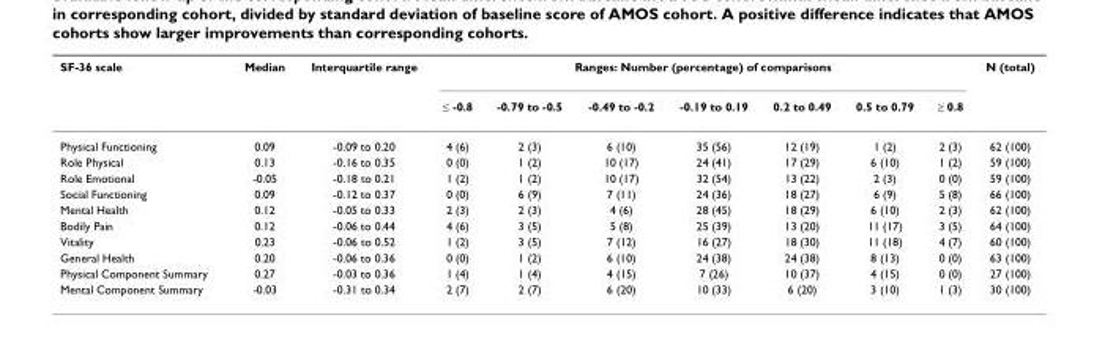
<table><thead><tr><td rowspan="2">SF-36 scale</td><td rowspan="2">Median</td><td rowspan="2">Interquartile range</td><td colspan="7">Ranges: Number (percentage) of comparisons</td><td rowspan="2">N (total)</td></tr><tr><td>≤ -0.8</td><td>-0.79 to -0.5</td><td>-0.49 to -0.2</td><td>-0.19 to 0.19</td><td>0.2 to 0.49</td><td>0.5 to 0.79</td><td>≥ 0.8</td></tr></thead><tbody><tr><td>Physical Functioning</td><td>0.09</td><td>-0.09 to 0.20</td><td>4 (6)</td><td>2 (3)</td><td>6 (10)</td><td>35 (56)</td><td>12 (19)</td><td>1 (2)</td><td>2 (3)</td><td>62 (100)</td></tr><tr><td>Role Physical</td><td>0.13</td><td>-0.16 to 0.35</td><td>0 (0)</td><td>1 (2)</td><td>10 (17)</td><td>24 (41)</td><td>17 (29)</td><td>6 (10)</td><td>1 (2)</td><td>59 (100)</td></tr><tr><td>Role Emotional</td><td>-0.05</td><td>-0.18 to 0.21</td><td>1 (2)</td><td>1 (2)</td><td>10 (17)</td><td>32 (54)</td><td>13 (22)</td><td>2 (3)</td><td>0 (0)</td><td>59 (100)</td></tr><tr><td>Social Functioning</td><td>0.09</td><td>-0.12 to 0.37</td><td>0 (0)</td><td>6 (9)</td><td>7 (11)</td><td>24 (36)</td><td>18 (27)</td><td>6 (9)</td><td>5 (8)</td><td>66 (100)</td></tr><tr><td>Mental Health</td><td>0.12</td><td>-0.05 to 0.33</td><td>2 (3)</td><td>2 (3)</td><td>4 (6)</td><td>28 (45)</td><td>18 (29)</td><td>6 (10)</td><td>2 (3)</td><td>62 (100)</td></tr><tr><td>Bodily Pain</td><td>0.12</td><td>-0.06 to 0.44</td><td>4 (6)</td><td>3 (5)</td><td>5 (8)</td><td>25 (39)</td><td>13 (20)</td><td>11 (17)</td><td>3 (5)</td><td>64 (100)</td></tr><tr><td>Vitality</td><td>0.23</td><td>-0.06 to 0.52</td><td>1 (2)</td><td>3 (5)</td><td>7 (12)</td><td>16 (27)</td><td>18 (30)</td><td>11 (18)</td><td>4 (7)</td><td>60 (100)</td></tr><tr><td>General Health</td><td>0.20</td><td>-0.06 to 0.36</td><td>0 (0)</td><td>1 (2)</td><td>6 (10)</td><td>24 (38)</td><td>24 (38)</td><td>8 (13)</td><td>0 (0)</td><td>63 (100)</td></tr><tr><td>Physical Component Summary</td><td>0.27</td><td>-0.03 to 0.36</td><td>1 (4)</td><td>1 (4)</td><td>4 (15)</td><td>7 (26)</td><td>10 (37)</td><td>4 (15)</td><td>0 (0)</td><td>27 (100)</td></tr><tr><td>Mental Component Summary</td><td>-0.03</td><td>-0.31 to 0.34</td><td>2 (7)</td><td>2 (7)</td><td>6 (20)</td><td>10 (33)</td><td>6 (20)</td><td>3 (10)</td><td>1 (3)</td><td>30 (100)</td></tr></tbody></table>